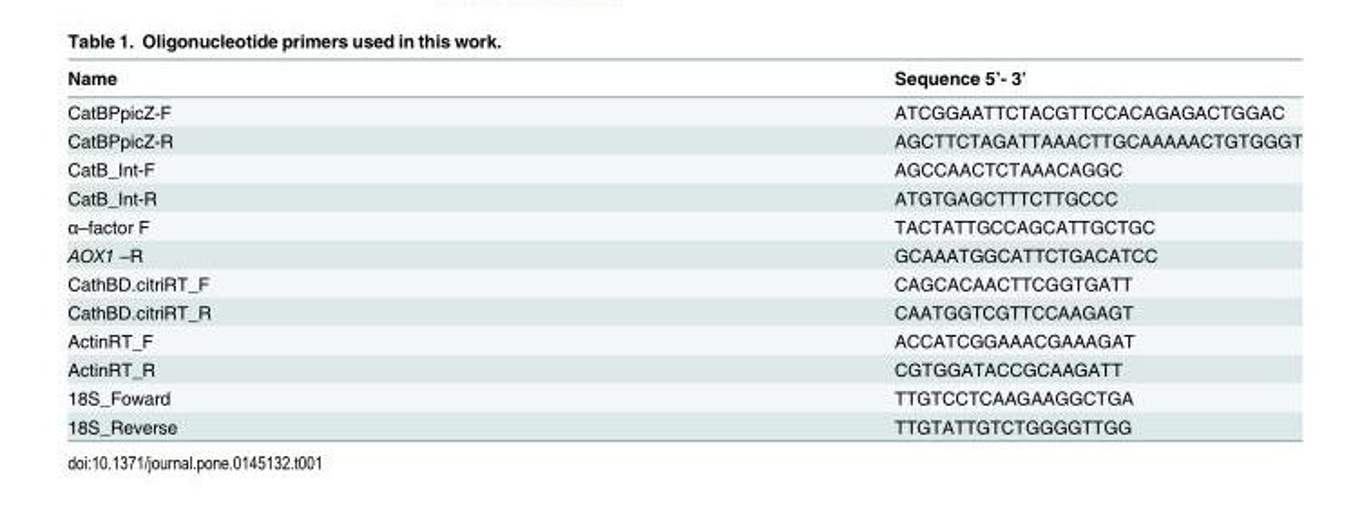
<table><thead><tr><td>Name</td><td>Sequence 5’- 3’</td></tr></thead><tbody><tr><td>CatBPpicZ-F</td><td>ATCGGAATTCTACGTTCCACAGAGACTGGAC</td></tr><tr><td>CatBPpicZ-R</td><td>AGCTTCTAGATTAAACTTGCAAAAACTGTGGGT</td></tr><tr><td>CatB_Int-F</td><td>AGCCAACTCTAAACAGGC</td></tr><tr><td>CatB_Int-R</td><td>ATGTGAGCTTTCTTGCCC</td></tr><tr><td>α–factor F</td><td>TACTATTGCCAGCATTGCTGC</td></tr><tr><td>AOX1 –R</td><td>GCAAATGGCATTCTGACATCC</td></tr><tr><td>CathBD.citriRT_F</td><td>CAGCACAACTTCGGTGATT</td></tr><tr><td>CathBD.citriRT_R</td><td>CAATGGTCGTTCCAAGAGT</td></tr><tr><td>ActinRT_F</td><td>ACCATCGGAAACGAAAGAT</td></tr><tr><td>ActinRT_R</td><td>CGTGGATACCGCAAGATT</td></tr><tr><td>18S_Foward</td><td>TTGTCCTCAAGAAGGCTGA</td></tr><tr><td>18S_Reverse</td><td>TTGTATTGTCTGGGGTTGG</td></tr></tbody></table>